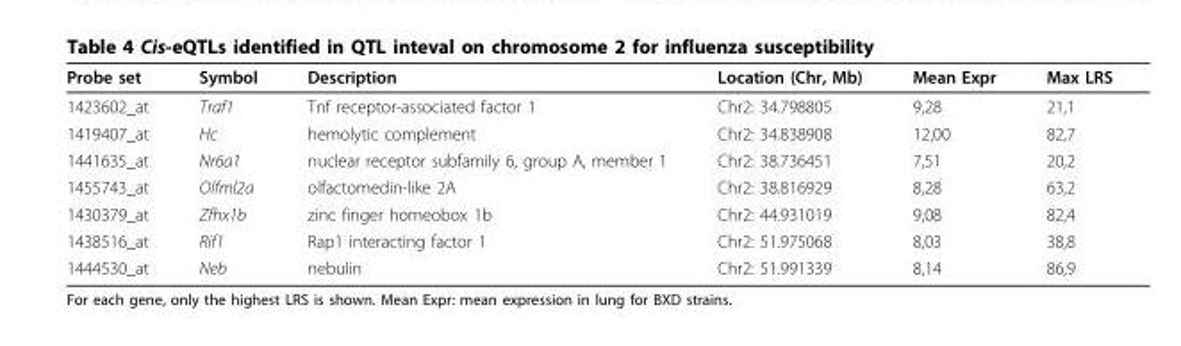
<table><thead><tr><td>Probe set</td><td>Symbol</td><td>Description</td><td>Location (Chr, Mb)</td><td>Mean Expr</td><td>Max LRS</td></tr></thead><tbody><tr><td>1423602_at</td><td>Traf1</td><td>Tnf receptor-associated factor 1</td><td>Chr2: 34.798805</td><td>9,28</td><td>21,1</td></tr><tr><td>1419407_at</td><td>Hc</td><td>hemolytic complement</td><td>Chr2: 34.838908</td><td>12,00</td><td>82,7</td></tr><tr><td>1441635_at</td><td>Nr6a1</td><td>nuclear receptor subfamily 6, group A, member 1</td><td>Chr2: 38.736451</td><td>7,51</td><td>20,2</td></tr><tr><td>1455743_at</td><td>Olfml2a</td><td>olfactomedin-like 2A</td><td>Chr2: 38.816929</td><td>8,28</td><td>63,2</td></tr><tr><td>1430379_at</td><td>Zfhx1b</td><td>zinc finger homeobox 1b</td><td>Chr2: 44.931019</td><td>9,08</td><td>82,4</td></tr><tr><td>1438516_at</td><td>Rif1</td><td>Rap1 interacting factor 1</td><td>Chr2: 51.975068</td><td>8,03</td><td>38,8</td></tr><tr><td>1444530_at</td><td>Neb</td><td>nebulin</td><td>Chr2: 51.991339</td><td>8,14</td><td>86,9</td></tr></tbody></table>